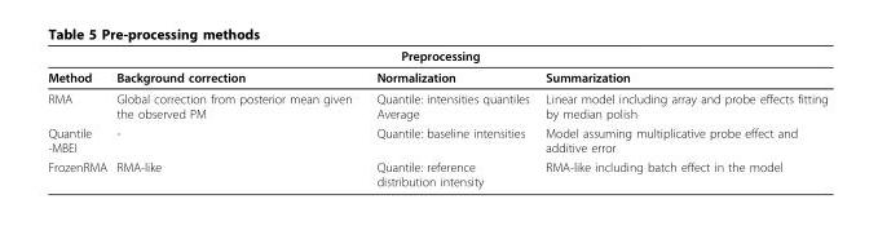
<table><thead><tr><td colspan="4">Preprocessing</td></tr><tr><td>Method</td><td>Background correction</td><td>Normalization</td><td>Summarization</td></tr></thead><tbody><tr><td>RMA</td><td>Global correction from posterior mean given the observed PM</td><td>Quantile: intensities quantiles Average</td><td>Linear model including array and probe effects fitting by median polish</td></tr><tr><td>Quantile -MBEI</td><td>-</td><td>Quantile: baseline intensities</td><td>Model assuming multiplicative probe effect and additive error</td></tr><tr><td>FrozenRMA</td><td>RMA-like</td><td>Quantile: reference distribution intensity</td><td>RMA-like including batch effect in the model</td></tr></tbody></table>